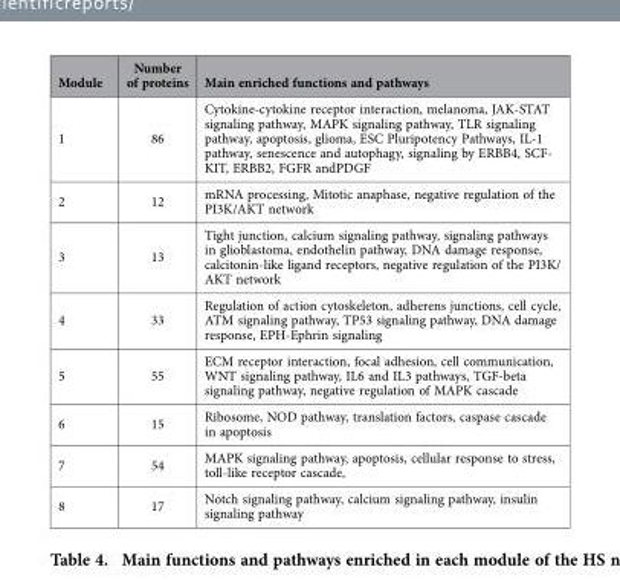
<table><thead><tr><td>Module</td><td>Number of proteins</td><td>Main enriched functions and pathways</td></tr></thead><tbody><tr><td>1</td><td>86</td><td>Cytokine-cytokine receptor interaction, melanoma, JAK-STAT signaling pathway, MAPK signaling pathway, TLR signaling pathway, apoptosis, glioma, ESC Pluripotency Pathways, IL-1 pathway, senescence and autophagy, signaling by ERBB4, SCF- KIT, ERBB2, FGFR andPDGF</td></tr><tr><td>2</td><td>12</td><td>mRNA processing, Mitotic anaphase, negative regulation of the PI3K/AKT network</td></tr><tr><td>3</td><td>13</td><td>Tight junction, calcium signaling pathway, signaling pathways in glioblastoma, endothelin pathway, DNA damage response, calcitonin-like ligand receptors, negative regulation of the PI3K/ AKT network</td></tr><tr><td>4</td><td>33</td><td>Regulation of action cytoskeleton, adherens junctions, cell cycle, ATM signaling pathway, TP53 signaling pathway, DNA damage response, EPH-Ephrin signaling</td></tr><tr><td>5</td><td>55</td><td>ECM receptor interaction, focal adhesion, cell communication, WNT signaling pathway, IL6 and IL3 pathways, TGF-beta signaling pathway, negative regulation of MAPK cascade</td></tr><tr><td>6</td><td>15</td><td>Ribosome, NOD pathway, translation factors, caspase cascade in apoptosis</td></tr><tr><td>7</td><td>54</td><td>MAPK signaling pathway, apoptosis, cellular response to stress, toll-like receptor cascade,</td></tr><tr><td>8</td><td>17</td><td>Notch signaling pathway, calcium signaling pathway, insulin signaling pathway</td></tr></tbody></table>